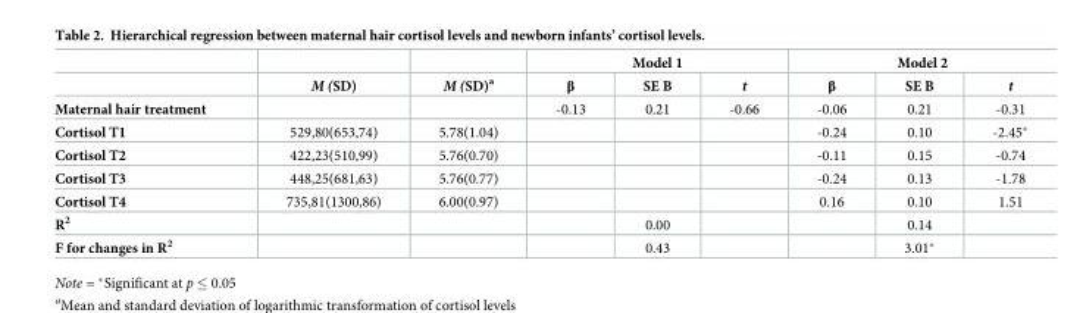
<table><thead><tr><td rowspan="2"></td><td rowspan="2">M (SD)</td><td rowspan="2">M (SD)<sup>a</sup></td><td colspan="3">Model 1</td><td colspan="3">Model 2</td></tr><tr><td>β</td><td>SE B</td><td>t</td><td>β</td><td>SE B</td><td>t</td></tr></thead><tbody><tr><td>Maternal hair treatment</td><td></td><td></td><td>-0.13</td><td>0.21</td><td>-0.66</td><td>-0.06</td><td>0.21</td><td>-0.31</td></tr><tr><td>Cortisol T1</td><td>529,80(653,74)</td><td>5.78(1.04)</td><td></td><td></td><td></td><td>-0.24</td><td>0.10</td><td>-2.45*</td></tr><tr><td>Cortisol T2</td><td>422,23(510,99)</td><td>5.76(0.70)</td><td></td><td></td><td></td><td>-0.11</td><td>0.15</td><td>-0.74</td></tr><tr><td>Cortisol T3</td><td>448,25(681,63)</td><td>5.76(0.77)</td><td></td><td></td><td></td><td>-0.24</td><td>0.13</td><td>-1.78</td></tr><tr><td>Cortisol T4</td><td>735,81(1300,86)</td><td>6.00(0.97)</td><td></td><td></td><td></td><td>0.16</td><td>0.10</td><td>1.51</td></tr><tr><td>R<sup>2</sup></td><td></td><td></td><td></td><td>0.00</td><td></td><td></td><td>0.14</td><td></td></tr><tr><td>F for changes in R<sup>2</sup></td><td></td><td></td><td></td><td>0.43</td><td></td><td></td><td>3.01*</td><td></td></tr></tbody></table>